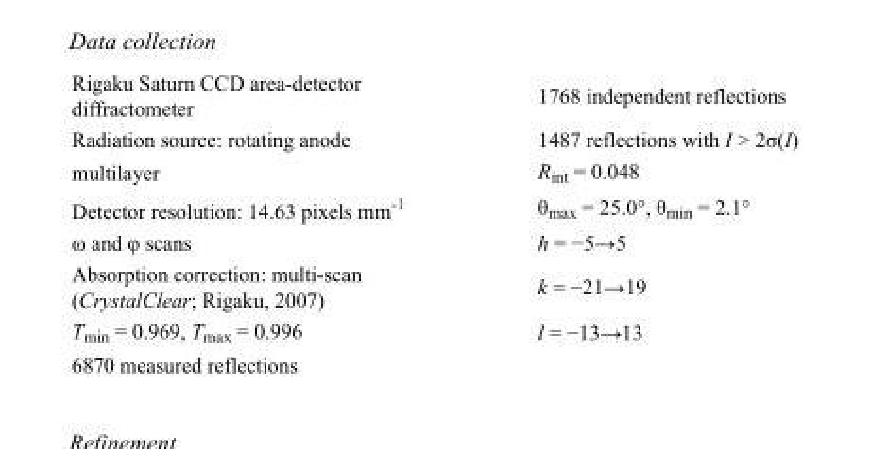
<table><tbody><tr><td>Rigaku Saturn CCD area-detector diffractometer</td><td>1768 independent reflections</td></tr><tr><td>Radiation source: rotating anode</td><td>1487 reflections with I &gt; 2σ(I)</td></tr><tr><td>multilayer</td><td>R<sub>int</sub> = 0.048</td></tr><tr><td>Detector resolution: 14.63 pixels mm<sup>-1</sup></td><td>θ<sub>max</sub> = 25.0°, θ<sub>min</sub> = 2.1°</td></tr><tr><td>ω and φ scans</td><td>h = −5→5</td></tr><tr><td>Absorption correction: multi-scan (CrystalClear; Rigaku, 2007)</td><td>k = −21→19</td></tr><tr><td>T<sub>min</sub> = 0.969, T<sub>max</sub> = 0.996</td><td>l = −13→13</td></tr><tr><td>6870 measured reflections</td><td></td></tr></tbody></table>